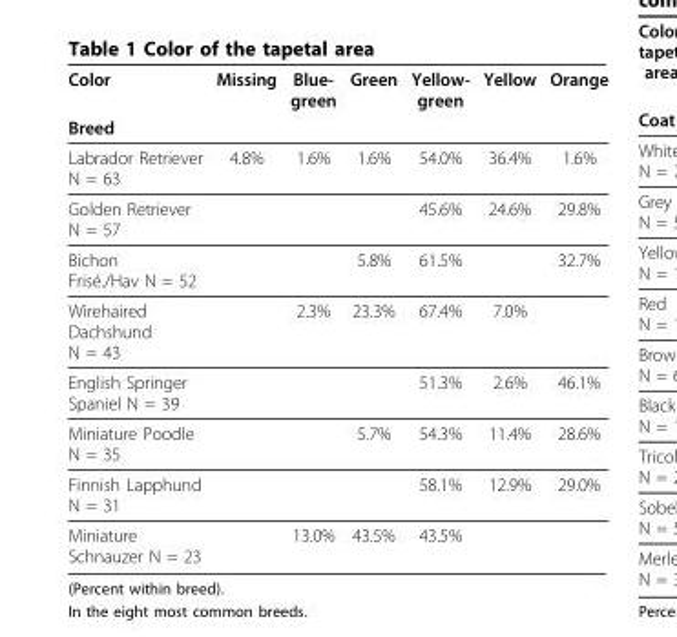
<table><thead><tr><td>Color</td><td>Missing</td><td>Blue- green</td><td>Green</td><td>Yellow- green</td><td>Yellow</td><td>Orange</td></tr><tr><td colspan="7">Breed</td></tr></thead><tbody><tr><td>Labrador Retriever N = 63</td><td>4.8%</td><td>1.6%</td><td>1.6%</td><td>54.0%</td><td>36.4%</td><td>1.6%</td></tr><tr><td>Golden Retriever N = 57</td><td></td><td></td><td></td><td>45.6%</td><td>24.6%</td><td>29.8%</td></tr><tr><td>Bichon Frisé./Hav N = 52</td><td></td><td></td><td>5.8%</td><td>61.5%</td><td></td><td>32.7%</td></tr><tr><td>Wirehaired Dachshund N = 43</td><td></td><td>2.3%</td><td>23.3%</td><td>67.4%</td><td>7.0%</td><td></td></tr><tr><td>English Springer Spaniel N = 39</td><td></td><td></td><td></td><td>51.3%</td><td>2.6%</td><td>46.1%</td></tr><tr><td>Miniature Poodle N = 35</td><td></td><td></td><td>5.7%</td><td>54.3%</td><td>11.4%</td><td>28.6%</td></tr><tr><td>Finnish Lapphund N = 31</td><td></td><td></td><td></td><td>58.1%</td><td>12.9%</td><td>29.0%</td></tr><tr><td>Miniature Schnauzer N = 23</td><td></td><td>13.0%</td><td>43.5%</td><td>43.5%</td><td></td><td></td></tr></tbody></table>